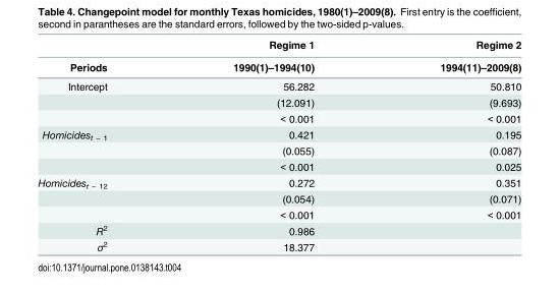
<table><thead><tr><td rowspan="2">Periods</td><td rowspan="2">Regime 1 1990(1)–1994(10)</td><td rowspan="2">Regime 2 1994(11)–2009(8)</td></tr><tr></tr></thead><tbody><tr><td rowspan="3">Intercept</td><td>56.282</td><td>50.810</td></tr><tr><td>(12.091)</td><td>(9.693)</td></tr><tr><td>&lt; 0.001</td><td>&lt; 0.001</td></tr><tr><td rowspan="3">Homicides<sub>t − 1</sub></td><td>0.421</td><td>0.195</td></tr><tr><td>(0.055)</td><td>(0.087)</td></tr><tr><td>&lt; 0.001</td><td>0.025</td></tr><tr><td rowspan="3">Homicides<sub>t − 12</sub></td><td>0.272</td><td>0.351</td></tr><tr><td>(0.054)</td><td>(0.071)</td></tr><tr><td>&lt; 0.001</td><td>&lt; 0.001</td></tr><tr><td>R<sup>2</sup></td><td>0.986</td><td></td></tr><tr><td>σ<sup>2</sup></td><td>18.377</td><td></td></tr></tbody></table>